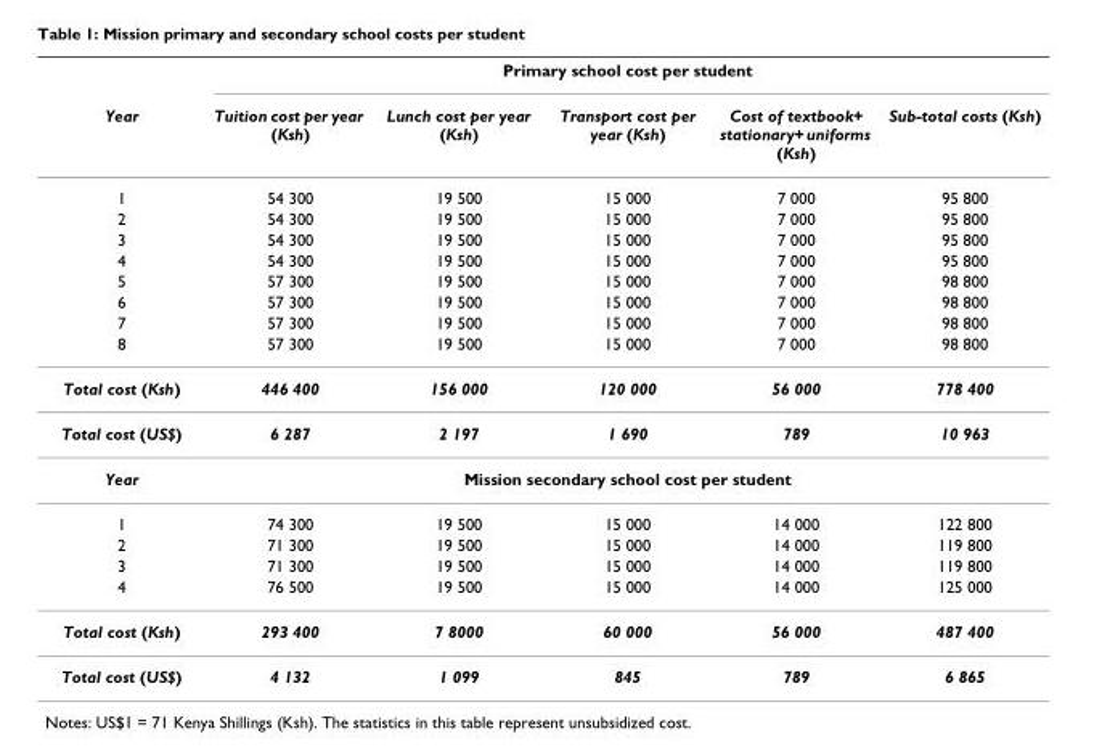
<table><thead><tr><td rowspan="2">Year</td><td colspan="5">Primary school cost per student</td></tr><tr><td>Tuition cost per year (Ksh)</td><td>Lunch cost per year (Ksh)</td><td>Transport cost per year (Ksh)</td><td>Cost of textbook+ stationary+ uniforms (Ksh)</td><td>Sub-total costs (Ksh)</td></tr></thead><tbody><tr><td>1</td><td>54 300</td><td>19 500</td><td>15 000</td><td>7 000</td><td>95 800</td></tr><tr><td>2</td><td>54 300</td><td>19 500</td><td>15 000</td><td>7 000</td><td>95 800</td></tr><tr><td>3</td><td>54 300</td><td>19 500</td><td>15 000</td><td>7 000</td><td>95 800</td></tr><tr><td>4</td><td>54 300</td><td>19 500</td><td>15 000</td><td>7 000</td><td>95 800</td></tr><tr><td>5</td><td>57 300</td><td>19 500</td><td>15 000</td><td>7 000</td><td>98 800</td></tr><tr><td>6</td><td>57 300</td><td>19 500</td><td>15 000</td><td>7 000</td><td>98 800</td></tr><tr><td>7</td><td>57 300</td><td>19 500</td><td>15 000</td><td>7 000</td><td>98 800</td></tr><tr><td>8</td><td>57 300</td><td>19 500</td><td>15 000</td><td>7 000</td><td>98 800</td></tr><tr><td>Total cost (Ksh)</td><td>446 400</td><td>156 000</td><td>120 000</td><td>56 000</td><td>778 400</td></tr><tr><td>Total cost (US$)</td><td>6 287</td><td>2 197</td><td>1 690</td><td>789</td><td>10 963</td></tr><tr><td>Year</td><td colspan="5">Mission secondary school cost per student</td></tr><tr><td>1</td><td>74 300</td><td>19 500</td><td>15 000</td><td>14 000</td><td>122 800</td></tr><tr><td>2</td><td>71 300</td><td>19 500</td><td>15 000</td><td>14 000</td><td>119 800</td></tr><tr><td>3</td><td>71 300</td><td>19 500</td><td>15 000</td><td>14 000</td><td>119 800</td></tr><tr><td>4</td><td>76 500</td><td>19 500</td><td>15 000</td><td>14 000</td><td>125 000</td></tr><tr><td>Total cost (Ksh)</td><td>293 400</td><td>7 8000</td><td>60 000</td><td>56 000</td><td>487 400</td></tr><tr><td>Total cost (US$)</td><td>4 132</td><td>1 099</td><td>845</td><td>789</td><td>6 865</td></tr></tbody></table>